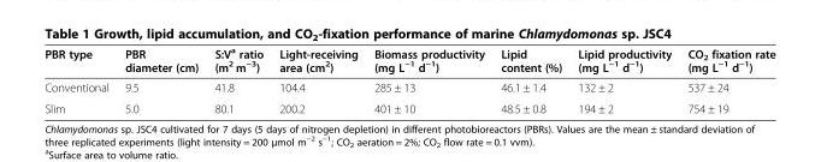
<table><thead><tr><td>PBR type</td><td>PBR diameter (cm)</td><td>S:V<sup>a</sup> ratio (m<sup>2</sup> m<sup>−3</sup>)</td><td>Light-receiving area (cm<sup>2</sup>)</td><td>Biomass productivity (mg L<sup>−1</sup> d<sup>−1</sup>)</td><td>Lipid content (%)</td><td>Lipid productivity (mg L<sup>−1</sup> d<sup>−1</sup>)</td><td>CO<sub>2</sub> fixation rate (mg L<sup>−1</sup> d<sup>−1</sup>)</td></tr></thead><tbody><tr><td>Conventional</td><td>9.5</td><td>41.8</td><td>104.4</td><td>285 ± 13</td><td>46.1 ± 1.4</td><td>132 ± 2</td><td>537 ± 24</td></tr><tr><td>Slim</td><td>5.0</td><td>80.1</td><td>200.2</td><td>401 ± 10</td><td>48.5 ± 0.8</td><td>194 ± 2</td><td>754 ± 19</td></tr></tbody></table>